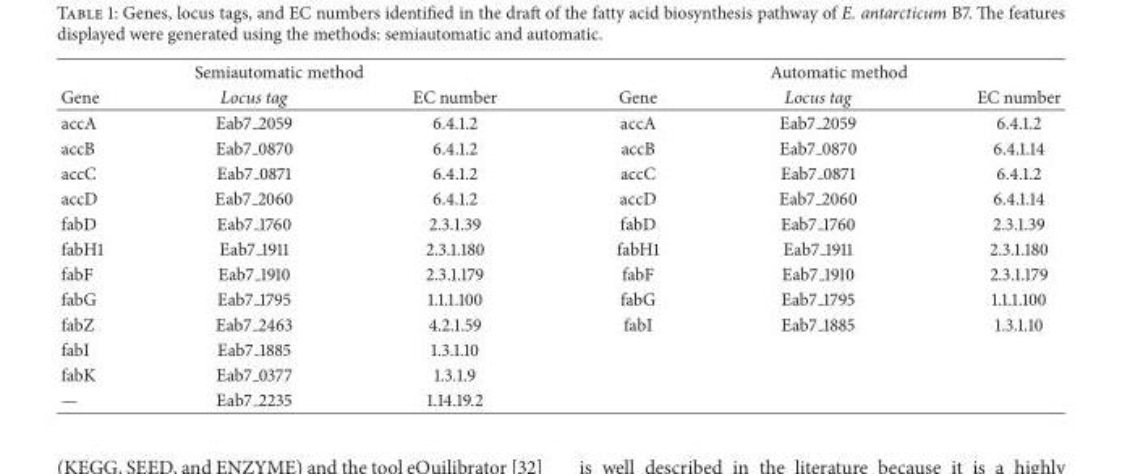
<table><thead><tr><td colspan="3">Semiautomatic method</td><td colspan="3">Automatic method</td></tr><tr><td>Gene</td><td>Locus tag</td><td>EC number</td><td>Gene</td><td>Locus tag</td><td>EC number</td></tr></thead><tbody><tr><td>accA</td><td>Eab7 2059</td><td>6.4.1.2</td><td>accA</td><td>Eab7 2059</td><td>6.4.1.2</td></tr><tr><td>accB</td><td>Eab7 0870</td><td>6.4.1.2</td><td>accB</td><td>Eab7 0870</td><td>6.4.1.14</td></tr><tr><td>accC</td><td>Eab7 0871</td><td>6.4.1.2</td><td>accC</td><td>Eab7 0871</td><td>6.4.1.2</td></tr><tr><td>accD</td><td>Eab7 2060</td><td>6.4.1.2</td><td>accD</td><td>Eab7 2060</td><td>6.4.1.14</td></tr><tr><td>fabD</td><td>Eab7 1760</td><td>2.3.1.39</td><td>fabD</td><td>Eab7 1760</td><td>2.3.1.39</td></tr><tr><td>fabH1</td><td>Eab7 1911</td><td>2.3.1.180</td><td>fabH1</td><td>Eab7 1911</td><td>2.3.1.180</td></tr><tr><td>fabF</td><td>Eab7 1910</td><td>2.3.1.179</td><td>fabF</td><td>Eab7 1910</td><td>2.3.1.179</td></tr><tr><td>fabG</td><td>Eab7 1795</td><td>1.1.1.100</td><td>fabG</td><td>Eab7 1795</td><td>1.1.1.100</td></tr><tr><td>fabZ</td><td>Eab7 2463</td><td>4.2.1.59</td><td>fabI</td><td>Eab7 1885</td><td>1.3.1.10</td></tr><tr><td>fabI</td><td>Eab7 1885</td><td>1.3.1.10</td><td></td><td></td><td></td></tr><tr><td>fabK</td><td>Eab7 0377</td><td>1.3.1.9</td><td></td><td></td><td></td></tr><tr><td>—</td><td>Eab7 2235</td><td>1.14.19.2</td><td></td><td></td><td></td></tr></tbody></table>